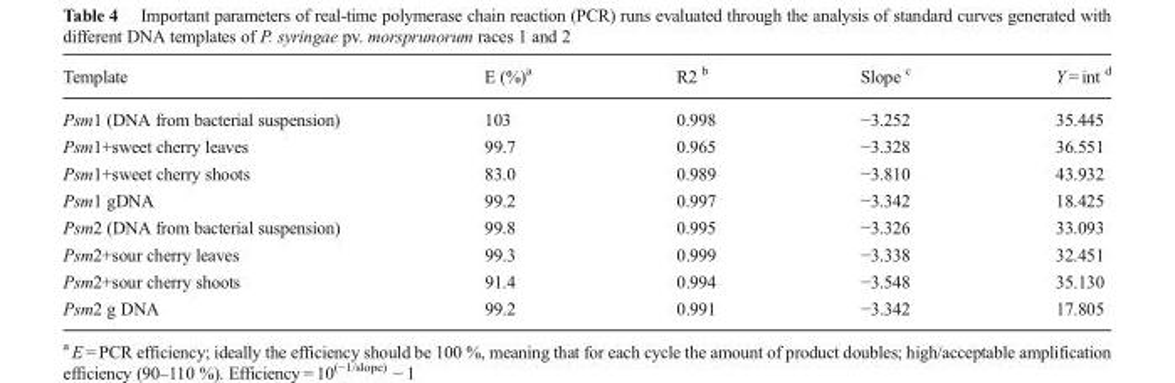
<table><thead><tr><td>Template</td><td>E (%)<sup>a</sup></td><td>R2 <sup>b</sup></td><td>Slope <sup>c</sup></td><td>Y = int <sup>d</sup></td></tr></thead><tbody><tr><td>Psm1 (DNA from bacterial suspension)</td><td>103</td><td>0.998</td><td>−3.252</td><td>35.445</td></tr><tr><td>Psm1+sweet cherry leaves</td><td>99.7</td><td>0.965</td><td>−3.328</td><td>36.551</td></tr><tr><td>Psm1+sweet cherry shoots</td><td>83.0</td><td>0.989</td><td>−3.810</td><td>43.932</td></tr><tr><td>Psm1 gDNA</td><td>99.2</td><td>0.997</td><td>−3.342</td><td>18.425</td></tr><tr><td>Psm2 (DNA from bacterial suspension)</td><td>99.8</td><td>0.995</td><td>−3.326</td><td>33.093</td></tr><tr><td>Psm2+sour cherry leaves</td><td>99.3</td><td>0.999</td><td>−3.338</td><td>32.451</td></tr><tr><td>Psm2+sour cherry shoots</td><td>91.4</td><td>0.994</td><td>−3.548</td><td>35.130</td></tr><tr><td>Psm2 g DNA</td><td>99.2</td><td>0.991</td><td>−3.342</td><td>17.805</td></tr></tbody></table>